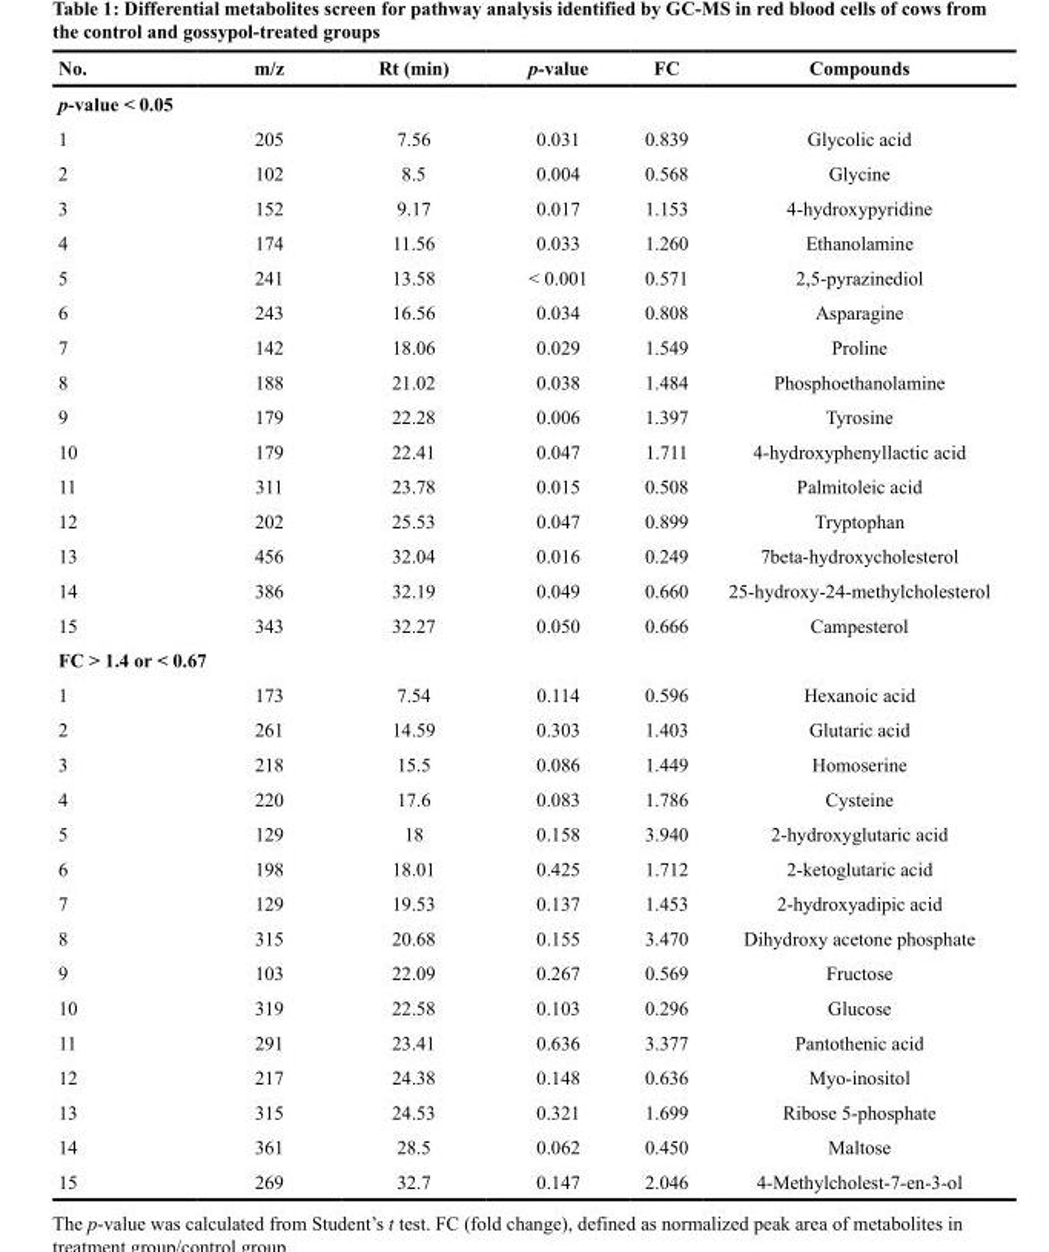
<table><thead><tr><td>No.</td><td>m/z</td><td>Rt (min)</td><td>p-value</td><td>FC</td><td>Compounds</td></tr></thead><tbody><tr><td colspan="6">p-value &lt; 0.05</td></tr><tr><td>1</td><td>205</td><td>7.56</td><td>0.031</td><td>0.839</td><td>Glycolic acid</td></tr><tr><td>2</td><td>102</td><td>8.5</td><td>0.004</td><td>0.568</td><td>Glycine</td></tr><tr><td>3</td><td>152</td><td>9.17</td><td>0.017</td><td>1.153</td><td>4-hydroxypyridine</td></tr><tr><td>4</td><td>174</td><td>11.56</td><td>0.033</td><td>1.260</td><td>Ethanolamine</td></tr><tr><td>5</td><td>241</td><td>13.58</td><td>&lt; 0.001</td><td>0.571</td><td>2,5-pyrazinediol</td></tr><tr><td>6</td><td>243</td><td>16.56</td><td>0.034</td><td>0.808</td><td>Asparagine</td></tr><tr><td>7</td><td>142</td><td>18.06</td><td>0.029</td><td>1.549</td><td>Proline</td></tr><tr><td>8</td><td>188</td><td>21.02</td><td>0.038</td><td>1.484</td><td>Phosphoethanolamine</td></tr><tr><td>9</td><td>179</td><td>22.28</td><td>0.006</td><td>1.397</td><td>Tyrosine</td></tr><tr><td>10</td><td>179</td><td>22.41</td><td>0.047</td><td>1.711</td><td>4-hydroxyphenyllactic acid</td></tr><tr><td>11</td><td>311</td><td>23.78</td><td>0.015</td><td>0.508</td><td>Palmitoleic acid</td></tr><tr><td>12</td><td>202</td><td>25.53</td><td>0.047</td><td>0.899</td><td>Tryptophan</td></tr><tr><td>13</td><td>456</td><td>32.04</td><td>0.016</td><td>0.249</td><td>7beta-hydroxycholesterol</td></tr><tr><td>14</td><td>386</td><td>32.19</td><td>0.049</td><td>0.660</td><td>25-hydroxy-24-methylcholesterol</td></tr><tr><td>15</td><td>343</td><td>32.27</td><td>0.050</td><td>0.666</td><td>Campesterol</td></tr><tr><td colspan="6">FC &gt; 1.4 or &lt; 0.67</td></tr><tr><td>1</td><td>173</td><td>7.54</td><td>0.114</td><td>0.596</td><td>Hexanoic acid</td></tr><tr><td>2</td><td>261</td><td>14.59</td><td>0.303</td><td>1.403</td><td>Glutaric acid</td></tr><tr><td>3</td><td>218</td><td>15.5</td><td>0.086</td><td>1.449</td><td>Homoserine</td></tr><tr><td>4</td><td>220</td><td>17.6</td><td>0.083</td><td>1.786</td><td>Cysteine</td></tr><tr><td>5</td><td>129</td><td>18</td><td>0.158</td><td>3.940</td><td>2-hydroxyglutaric acid</td></tr><tr><td>6</td><td>198</td><td>18.01</td><td>0.425</td><td>1.712</td><td>2-ketoglutaric acid</td></tr><tr><td>7</td><td>129</td><td>19.53</td><td>0.137</td><td>1.453</td><td>2-hydroxyadipic acid</td></tr><tr><td>8</td><td>315</td><td>20.68</td><td>0.155</td><td>3.470</td><td>Dihydroxy acetone phosphate</td></tr><tr><td>9</td><td>103</td><td>22.09</td><td>0.267</td><td>0.569</td><td>Fructose</td></tr><tr><td>10</td><td>319</td><td>22.58</td><td>0.103</td><td>0.296</td><td>Glucose</td></tr><tr><td>11</td><td>291</td><td>23.41</td><td>0.636</td><td>3.377</td><td>Pantothenic acid</td></tr><tr><td>12</td><td>217</td><td>24.38</td><td>0.148</td><td>0.636</td><td>Myo-inositol</td></tr><tr><td>13</td><td>315</td><td>24.53</td><td>0.321</td><td>1.699</td><td>Ribose 5-phosphate</td></tr><tr><td>14</td><td>361</td><td>28.5</td><td>0.062</td><td>0.450</td><td>Maltose</td></tr><tr><td>15</td><td>269</td><td>32.7</td><td>0.147</td><td>2.046</td><td>4-Methylcholest-7-en-3-ol</td></tr></tbody></table>